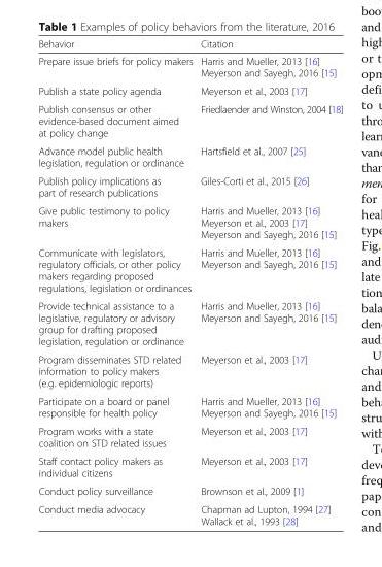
<table><thead><tr><td>Behavior</td><td>Citation</td></tr></thead><tbody><tr><td>Prepare issue briefs for policy makers</td><td>Harris and Mueller, 2013 [16] Meyerson and Sayegh, 2016 [15]</td></tr><tr><td>Publish a state policy agenda</td><td>Meyerson et al., 2003 [17]</td></tr><tr><td>Publish consensus or other evidence-based document aimed at policy change</td><td>Friedlaender and Winston, 2004 [18]</td></tr><tr><td>Advance model public health legislation, regulation or ordinance</td><td>Hartsfield et al., 2007 [25]</td></tr><tr><td>Publish policy implications as part of research publications</td><td>Giles-Corti et al., 2015 [26]</td></tr><tr><td>Give public testimony to policy makers</td><td>Harris and Mueller, 2013 [16] Meyerson et al., 2003 [17] Meyerson and Sayegh, 2016 [15]</td></tr><tr><td>Communicate with legislators, regulatory officials, or other policy makers regarding proposed regulations, legislation or ordinances</td><td>Harris and Mueller, 2013 [16] Meyerson and Sayegh, 2016 [15]</td></tr><tr><td>Provide technical assistance to a legislative, regulatory or advisory group for drafting proposed legislation, regulation or ordinance</td><td>Harris and Mueller, 2013 [16] Meyerson and Sayegh, 2016 [15]</td></tr><tr><td>Program disseminates STD related information to policy makers (e.g. epidemiologic reports)</td><td>Meyerson et al., 2003 [17]</td></tr><tr><td>Participate on a board or panel responsible for health policy</td><td>Harris and Mueller, 2013 [16] Meyerson and Sayegh, 2016 [15]</td></tr><tr><td>Program works with a state coalition on STD related issues</td><td>Meyerson et al., 2003 [17]</td></tr><tr><td>Staff contact policy makers as individual citizens</td><td>Meyerson et al., 2003 [17]</td></tr><tr><td>Conduct policy surveillance</td><td>Brownson et al., 2009 [1]</td></tr><tr><td>Conduct media advocacy</td><td>Chapman ad Lupton, 1994 [27] Wallack et al., 1993 [28]</td></tr></tbody></table>